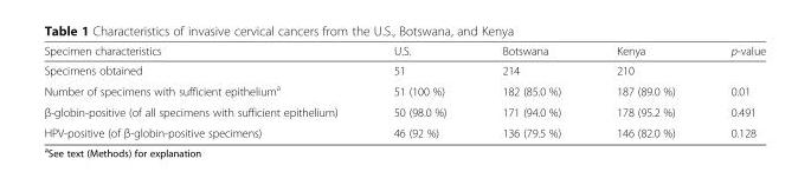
<table><thead><tr><td>Specimen characteristics</td><td>U.S.</td><td>Botswana</td><td>Kenya</td><td>p-value</td></tr></thead><tbody><tr><td>Specimens obtained</td><td>51</td><td>214</td><td>210</td><td></td></tr><tr><td>Number of specimens with sufficient epithelium<sup>a</sup></td><td>51 (100 %)</td><td>182 (85.0 %)</td><td>187 (89.0 %)</td><td>0.01</td></tr><tr><td>β-globin-positive (of all specimens with sufficient epithelium)</td><td>50 (98.0 %)</td><td>171 (94.0 %)</td><td>178 (95.2 %)</td><td>0.491</td></tr><tr><td>HPV-positive (of β-globin-positive specimens)</td><td>46 (92 %)</td><td>136 (79.5 %)</td><td>146 (82.0 %)</td><td>0.128</td></tr></tbody></table>